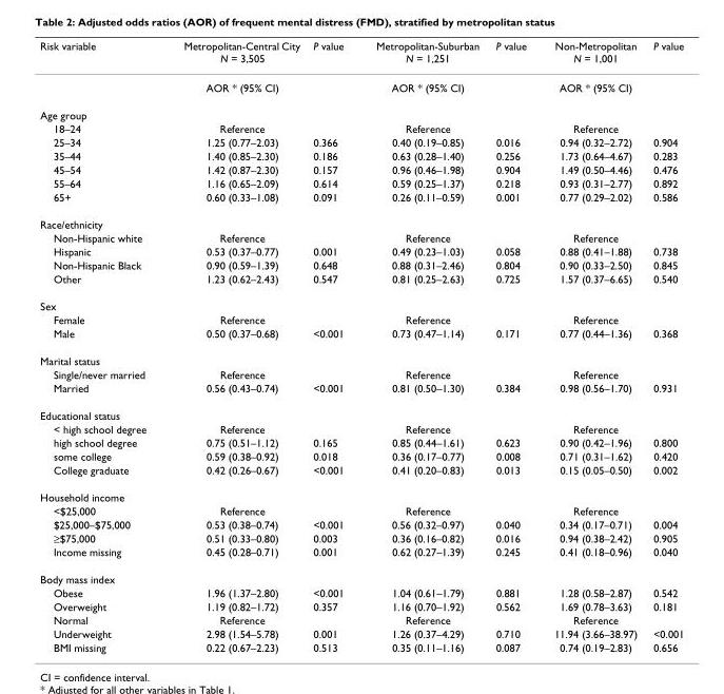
<table><thead><tr><td>Risk variable</td><td>Metropolitan-Central City N = 3,505</td><td>P value</td><td>Metropolitan-Suburban N = 1,251</td><td>P value</td><td>Non-Metropolitan N = 1,001</td><td>P value</td></tr></thead><tbody><tr><td></td><td>AOR * (95% CI)</td><td></td><td>AOR * (95% CI)</td><td></td><td>AOR * (95% CI)</td><td></td></tr><tr><td colspan="7">Age group</td></tr><tr><td>18–24</td><td>Reference</td><td></td><td>Reference</td><td></td><td>Reference</td><td></td></tr><tr><td>25–34</td><td>1.25 (0.77–2.03)</td><td>0.366</td><td>0.40 (0.19–0.85)</td><td>0.016</td><td>0.94 (0.32–2.72)</td><td>0.904</td></tr><tr><td>35–44</td><td>1.40 (0.85–2.30)</td><td>0.186</td><td>0.63 (0.28–1.40)</td><td>0.256</td><td>1.73 (0.64–4.67)</td><td>0.283</td></tr><tr><td>45–54</td><td>1.42 (0.87–2.30)</td><td>0.157</td><td>0.96 (0.46–1.98)</td><td>0.904</td><td>1.49 (0.50–4.46)</td><td>0.476</td></tr><tr><td>55–64</td><td>1.16 (0.65–2.09)</td><td>0.614</td><td>0.59 (0.25–1.37)</td><td>0.218</td><td>0.93 (0.31–2.77)</td><td>0.892</td></tr><tr><td>65+</td><td>0.60 (0.33–1.08)</td><td>0.091</td><td>0.26 (0.11–0.59)</td><td>0.001</td><td>0.77 (0.29–2.02)</td><td>0.586</td></tr><tr><td colspan="7">Race/ethnicity</td></tr><tr><td>Non-Hispanic white</td><td>Reference</td><td></td><td>Reference</td><td></td><td>Reference</td><td></td></tr><tr><td>Hispanic</td><td>0.53 (0.37–0.77)</td><td>0.001</td><td>0.49 (0.23–1.03)</td><td>0.058</td><td>0.88 (0.41–1.88)</td><td>0.738</td></tr><tr><td>Non-Hispanic Black</td><td>0.90 (0.59–1.39)</td><td>0.648</td><td>0.88 (0.31–2.46)</td><td>0.804</td><td>0.90 (0.33–2.50)</td><td>0.845</td></tr><tr><td>Other</td><td>1.23 (0.62–2.43)</td><td>0.547</td><td>0.81 (0.25–2.63)</td><td>0.725</td><td>1.57 (0.37–6.65)</td><td>0.540</td></tr><tr><td colspan="7">Sex</td></tr><tr><td>Female</td><td>Reference</td><td></td><td>Reference</td><td></td><td>Reference</td><td></td></tr><tr><td>Male</td><td>0.50 (0.37–0.68)</td><td>&lt;0.001</td><td>0.73 (0.47–1.14)</td><td>0.171</td><td>0.77 (0.44–1.36)</td><td>0.368</td></tr><tr><td colspan="7">Marital status</td></tr><tr><td>Single/never married</td><td>Reference</td><td></td><td>Reference</td><td></td><td>Reference</td><td></td></tr><tr><td>Married</td><td>0.56 (0.43–0.74)</td><td>&lt;0.001</td><td>0.81 (0.50–1.30)</td><td>0.384</td><td>0.98 (0.56–1.70)</td><td>0.931</td></tr><tr><td colspan="7">Educational status</td></tr><tr><td>&lt; high school degree</td><td>Reference</td><td></td><td>Reference</td><td></td><td>Reference</td><td></td></tr><tr><td>high school degree</td><td>0.75 (0.51–1.12)</td><td>0.165</td><td>0.85 (0.44–1.61)</td><td>0.623</td><td>0.90 (0.42–1.96)</td><td>0.800</td></tr><tr><td>some college</td><td>0.59 (0.38–0.92)</td><td>0.018</td><td>0.36 (0.17–0.77)</td><td>0.008</td><td>0.71 (0.31–1.62)</td><td>0.420</td></tr><tr><td>College graduate</td><td>0.42 (0.26–0.67)</td><td>&lt;0.001</td><td>0.41 (0.20–0.83)</td><td>0.013</td><td>0.15 (0.05–0.50)</td><td>0.002</td></tr><tr><td colspan="7">Household income</td></tr><tr><td>&lt;$25,000</td><td>Reference</td><td></td><td>Reference</td><td></td><td>Reference</td><td></td></tr><tr><td>$25,000–$75,000</td><td>0.53 (0.38–0.74)</td><td>&lt;0.001</td><td>0.56 (0.32–0.97)</td><td>0.040</td><td>0.34 (0.17–0.71)</td><td>0.004</td></tr><tr><td>≥$75,000</td><td>0.51 (0.33–0.80)</td><td>0.003</td><td>0.36 (0.16–0.82)</td><td>0.016</td><td>0.94 (0.38–2.42)</td><td>0.905</td></tr><tr><td>Income missing</td><td>0.45 (0.28–0.71)</td><td>0.001</td><td>0.62 (0.27–1.39)</td><td>0.245</td><td>0.41 (0.18–0.96)</td><td>0.040</td></tr><tr><td colspan="7">Body mass index</td></tr><tr><td>Obese</td><td>1.96 (1.37–2.80)</td><td>&lt;0.001</td><td>1.04 (0.61–1.79)</td><td>0.881</td><td>1.28 (0.58–2.87)</td><td>0.542</td></tr><tr><td>Overweight</td><td>1.19 (0.82–1.72)</td><td>0.357</td><td>1.16 (0.70–1.92)</td><td>0.562</td><td>1.69 (0.78–3.63)</td><td>0.181</td></tr><tr><td>Normal</td><td>Reference</td><td></td><td>Reference</td><td></td><td>Reference</td><td></td></tr><tr><td>Underweight</td><td>2.98 (1.54–5.78)</td><td>0.001</td><td>1.26 (0.37–4.29)</td><td>0.710</td><td>11.94 (3.66–38.97)</td><td>&lt;0.001</td></tr><tr><td>BMI missing</td><td>0.22 (0.67–2.23)</td><td>0.513</td><td>0.35 (0.11–1.16)</td><td>0.087</td><td>0.74 (0.19–2.83)</td><td>0.656</td></tr></tbody></table>